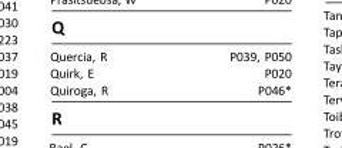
<table><tbody><tr><td>Quercia, R</td><td>P039, P050</td></tr><tr><td>Quirk, E</td><td>P020</td></tr><tr><td>Quiroga, R</td><td>P046*</td></tr></tbody></table>